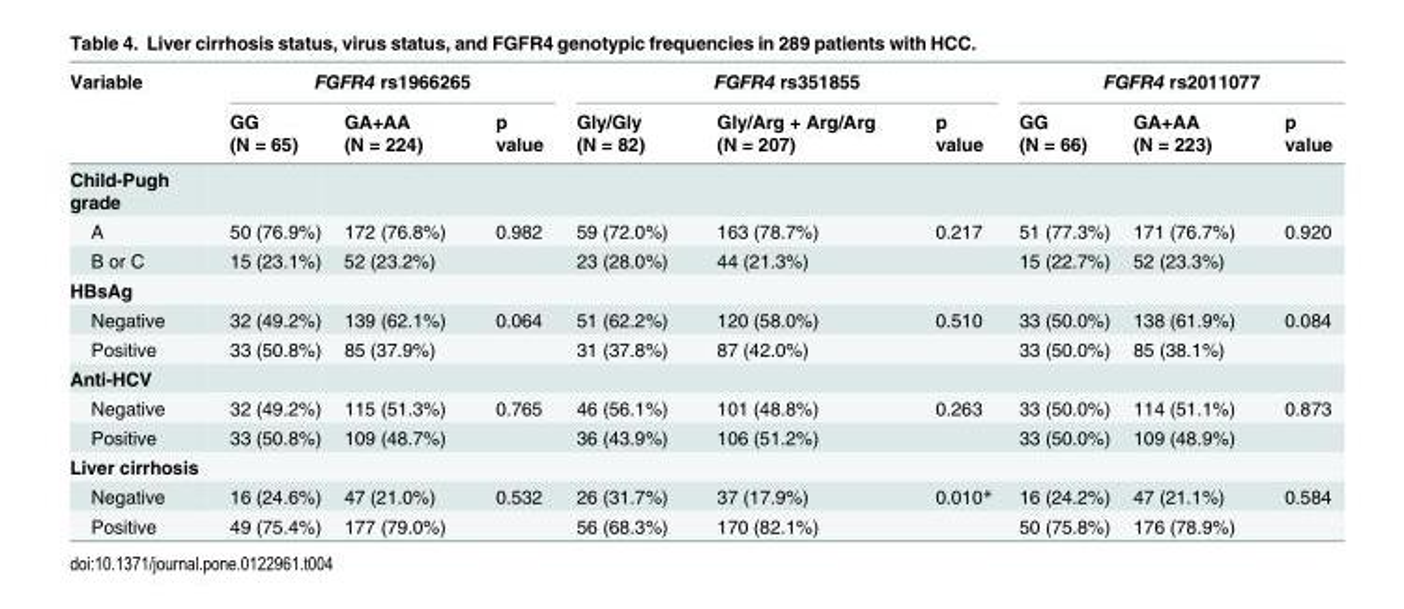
<table><thead><tr><td rowspan="2">Variable</td><td colspan="3">FGFR4 rs1966265</td><td colspan="3">FGFR4 rs351855</td><td colspan="3">FGFR4 rs2011077</td></tr><tr><td>GG (N = 65)</td><td>GA+AA (N = 224)</td><td>p value</td><td>Gly/Gly (N = 82)</td><td>Gly/Arg + Arg/Arg (N = 207)</td><td>p value</td><td>GG (N = 66)</td><td>GA+AA (N = 223)</td><td>p value</td></tr></thead><tbody><tr><td colspan="10">Child-Pugh grade</td></tr><tr><td>A</td><td>50 (76.9%)</td><td>172 (76.8%)</td><td>0.982</td><td>59 (72.0%)</td><td>163 (78.7%)</td><td>0.217</td><td>51 (77.3%)</td><td>171 (76.7%)</td><td>0.920</td></tr><tr><td>B or C</td><td>15 (23.1%)</td><td>52 (23.2%)</td><td></td><td>23 (28.0%)</td><td>44 (21.3%)</td><td></td><td>15 (22.7%)</td><td>52 (23.3%)</td><td></td></tr><tr><td colspan="10">HBsAg</td></tr><tr><td>Negative</td><td>32 (49.2%)</td><td>139 (62.1%)</td><td>0.064</td><td>51 (62.2%)</td><td>120 (58.0%)</td><td>0.510</td><td>33 (50.0%)</td><td>138 (61.9%)</td><td>0.084</td></tr><tr><td>Positive</td><td>33 (50.8%)</td><td>85 (37.9%)</td><td></td><td>31 (37.8%)</td><td>87 (42.0%)</td><td></td><td>33 (50.0%)</td><td>85 (38.1%)</td><td></td></tr><tr><td colspan="10">Anti-HCV</td></tr><tr><td>Negative</td><td>32 (49.2%)</td><td>115 (51.3%)</td><td>0.765</td><td>46 (56.1%)</td><td>101 (48.8%)</td><td>0.263</td><td>33 (50.0%)</td><td>114 (51.1%)</td><td>0.873</td></tr><tr><td>Positive</td><td>33 (50.8%)</td><td>109 (48.7%)</td><td></td><td>36 (43.9%)</td><td>106 (51.2%)</td><td></td><td>33 (50.0%)</td><td>109 (48.9%)</td><td></td></tr><tr><td colspan="10">Liver cirrhosis</td></tr><tr><td>Negative</td><td>16 (24.6%)</td><td>47 (21.0%)</td><td>0.532</td><td>26 (31.7%)</td><td>37 (17.9%)</td><td>0.010*</td><td>16 (24.2%)</td><td>47 (21.1%)</td><td>0.584</td></tr><tr><td>Positive</td><td>49 (75.4%)</td><td>177 (79.0%)</td><td></td><td>56 (68.3%)</td><td>170 (82.1%)</td><td></td><td>50 (75.8%)</td><td>176 (78.9%)</td><td></td></tr></tbody></table>